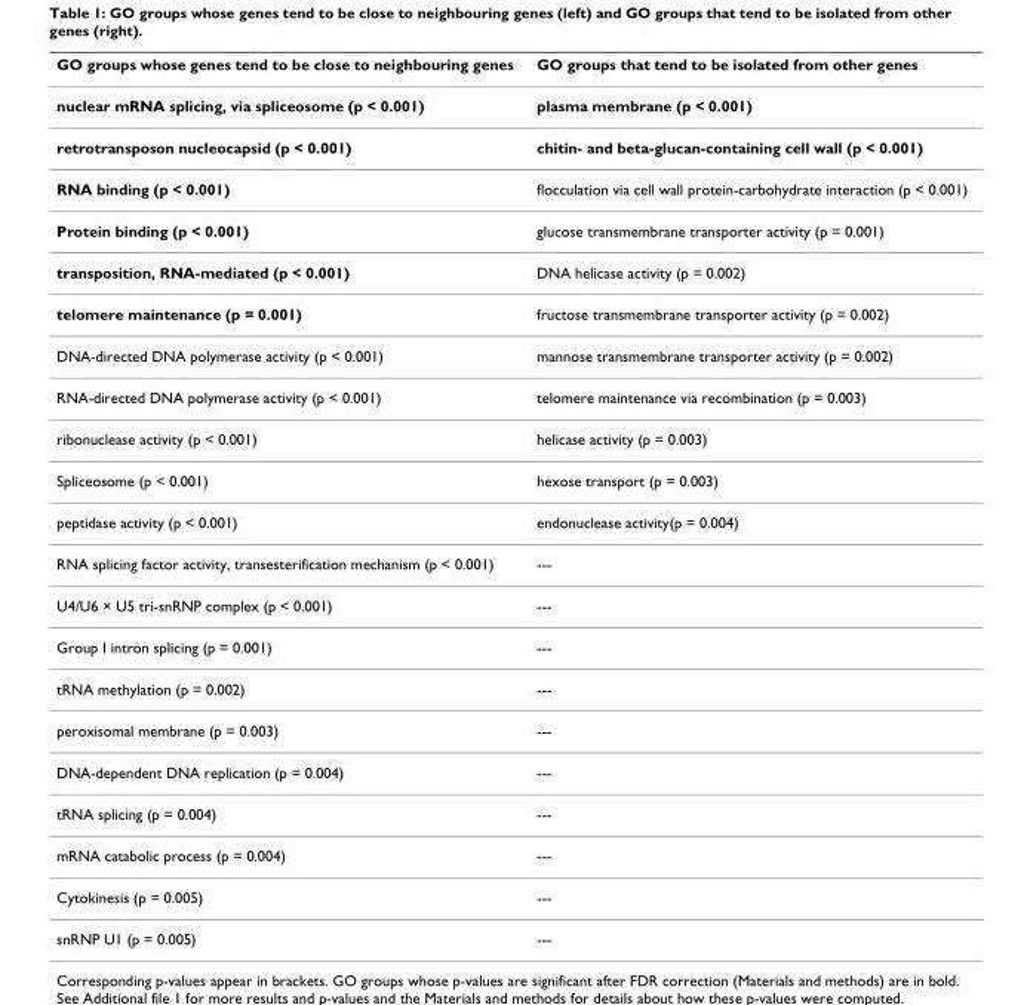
<table><thead><tr><td>GO groups whose genes tend to be close to neighbouring genes</td><td>GO groups that tend to be isolated from other genes</td></tr></thead><tbody><tr><td>nuclear mRNA splicing, via spliceosome (p &lt; 0.001)</td><td>plasma membrane (p &lt; 0.001)</td></tr><tr><td>retrotransposon nucleocapsid (p &lt; 0.001)</td><td>chitin- and beta-glucan-containing cell wall (p &lt; 0.001)</td></tr><tr><td>RNA binding (p &lt; 0.001)</td><td>flocculation via cell wall protein-carbohydrate interaction (p &lt; 0.001)</td></tr><tr><td>Protein binding (p &lt; 0.001)</td><td>glucose transmembrane transporter activity (p = 0.001)</td></tr><tr><td>transposition, RNA-mediated (p &lt; 0.001)</td><td>DNA helicase activity (p = 0.002)</td></tr><tr><td>telomere maintenance (p = 0.001)</td><td>fructose transmembrane transporter activity (p = 0.002)</td></tr><tr><td>DNA-directed DNA polymerase activity (p &lt; 0.001)</td><td>mannose transmembrane transporter activity (p = 0.002)</td></tr><tr><td>RNA-directed DNA polymerase activity (p &lt; 0.001)</td><td>telomere maintenance via recombination (p = 0.003)</td></tr><tr><td>ribonuclease activity (p &lt; 0.001)</td><td>helicase activity (p = 0.003)</td></tr><tr><td>Spliceosome (p &lt; 0.001)</td><td>hexose transport (p = 0.003)</td></tr><tr><td>peptidase activity (p &lt; 0.001)</td><td>endonuclease activity(p = 0.004)</td></tr><tr><td>RNA splicing factor activity, transesterification mechanism (p &lt; 0.001)</td><td>---</td></tr><tr><td>U4/U6 × U5 tri-snRNP complex (p &lt; 0.001)</td><td>---</td></tr><tr><td>Group I intron splicing (p = 0.001)</td><td>---</td></tr><tr><td>tRNA methylation (p = 0.002)</td><td>---</td></tr><tr><td>peroxisomal membrane (p = 0.003)</td><td>---</td></tr><tr><td>DNA-dependent DNA replication (p = 0.004)</td><td>---</td></tr><tr><td>tRNA splicing (p = 0.004)</td><td>---</td></tr><tr><td>mRNA catabolic process (p = 0.004)</td><td>---</td></tr><tr><td>Cytokinesis (p = 0.005)</td><td>---</td></tr><tr><td>snRNP U1 (p = 0.005)</td><td>---</td></tr></tbody></table>